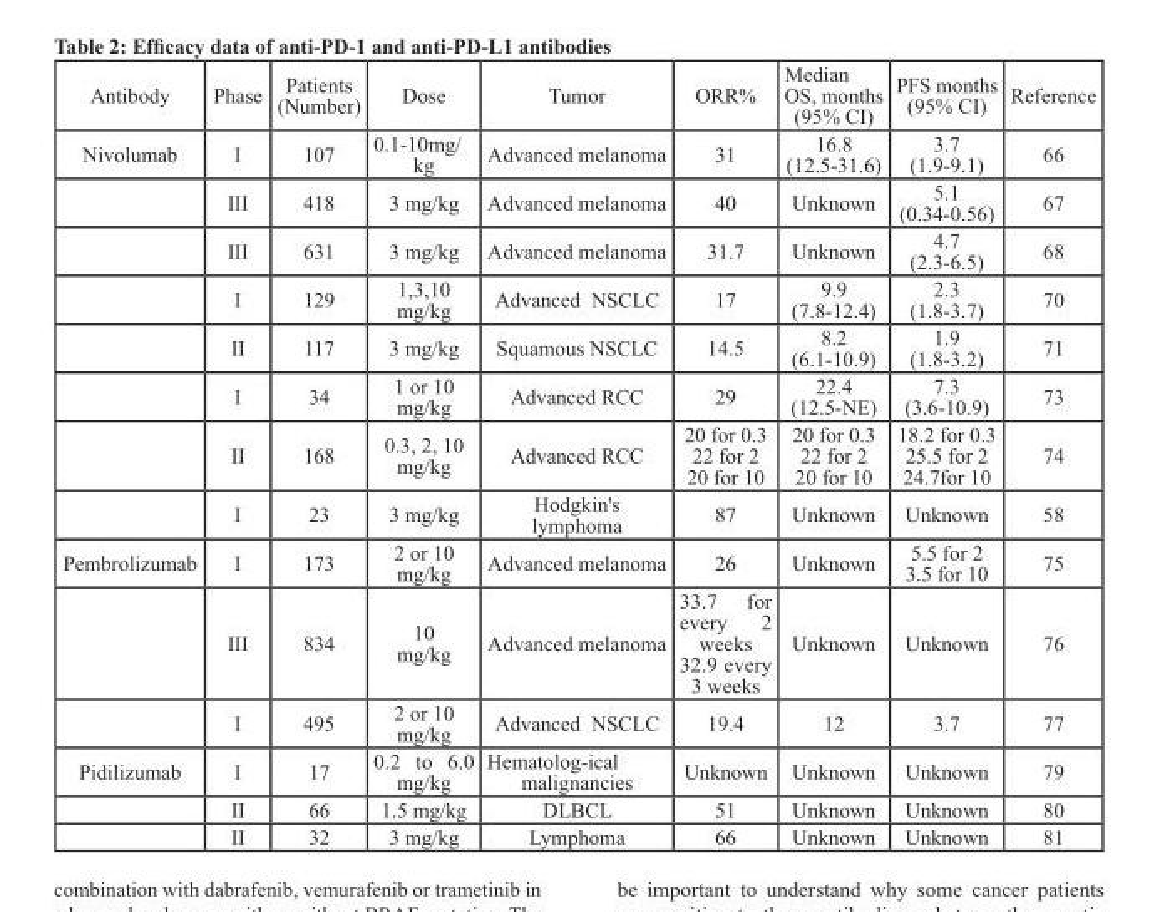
<table><thead><tr><td>Antibody</td><td>Phase</td><td>Patients (Number)</td><td>Dose</td><td>Tumor</td><td>ORR%</td><td>Median OS, months (95% CI)</td><td>PFS months (95% CI)</td><td>Reference</td></tr></thead><tbody><tr><td rowspan="8">Nivolumab</td><td>I</td><td>107</td><td>0.1-10mg/ kg</td><td>Advanced melanoma</td><td>31</td><td>16.8 (12.5-31.6)</td><td>3.7 (1.9-9.1)</td><td>66</td></tr><tr><td>III</td><td>418</td><td>3 mg/kg</td><td>Advanced melanoma</td><td>40</td><td>Unknown</td><td>5.1 (0.34-0.56)</td><td>67</td></tr><tr><td>III</td><td>631</td><td>3 mg/kg</td><td>Advanced melanoma</td><td>31.7</td><td>Unknown</td><td>4.7 (2.3-6.5)</td><td>68</td></tr><tr><td>I</td><td>129</td><td>1,3,10 mg/kg</td><td>Advanced NSCLC</td><td>17</td><td>9.9 (7.8-12.4)</td><td>2.3 (1.8-3.7)</td><td>70</td></tr><tr><td>II</td><td>117</td><td>3 mg/kg</td><td>Squamous NSCLC</td><td>14.5</td><td>8.2 (6.1-10.9)</td><td>1.9 (1.8-3.2)</td><td>71</td></tr><tr><td>I</td><td>34</td><td>1 or 10 mg/kg</td><td>Advanced RCC</td><td>29</td><td>22.4 (12.5-NE)</td><td>7.3 (3.6-10.9)</td><td>73</td></tr><tr><td>II</td><td>168</td><td>0.3, 2, 10 mg/kg</td><td>Advanced RCC</td><td>20 for 0.3 22 for 2 20 for 10</td><td>20 for 0.3 22 for 2 20 for 10</td><td>18.2 for 0.3 25.5 for 2 24.7for 10</td><td>74</td></tr><tr><td>I</td><td>23</td><td>3 mg/kg</td><td>Hodgkin&#x27;s lymphoma</td><td>87</td><td>Unknown</td><td>Unknown</td><td>58</td></tr><tr><td rowspan="3">Pembrolizumab</td><td>I</td><td>173</td><td>2 or 10 mg/kg</td><td>Advanced melanoma</td><td>26</td><td>Unknown</td><td>5.5 for 2 3.5 for 10</td><td>75</td></tr><tr><td>III</td><td>834</td><td>10 mg/kg</td><td>Advanced melanoma</td><td>33.7 for every 2 weeks 32.9 every 3 weeks</td><td>Unknown</td><td>Unknown</td><td>76</td></tr><tr><td>I</td><td>495</td><td>2 or 10 mg/kg</td><td>Advanced NSCLC</td><td>19.4</td><td>12</td><td>3.7</td><td>77</td></tr><tr><td rowspan="3">Pidilizumab</td><td>I</td><td>17</td><td>0.2 to 6.0 mg/kg</td><td>Hematolog-ical malignancies</td><td>Unknown</td><td>Unknown</td><td>Unknown</td><td>79</td></tr><tr><td>II</td><td>66</td><td>1.5 mg/kg</td><td>DLBCL</td><td>51</td><td>Unknown</td><td>Unknown</td><td>80</td></tr><tr><td>II</td><td>32</td><td>3 mg/kg</td><td>Lymphoma</td><td>66</td><td>Unknown</td><td>Unknown</td><td>81</td></tr></tbody></table>